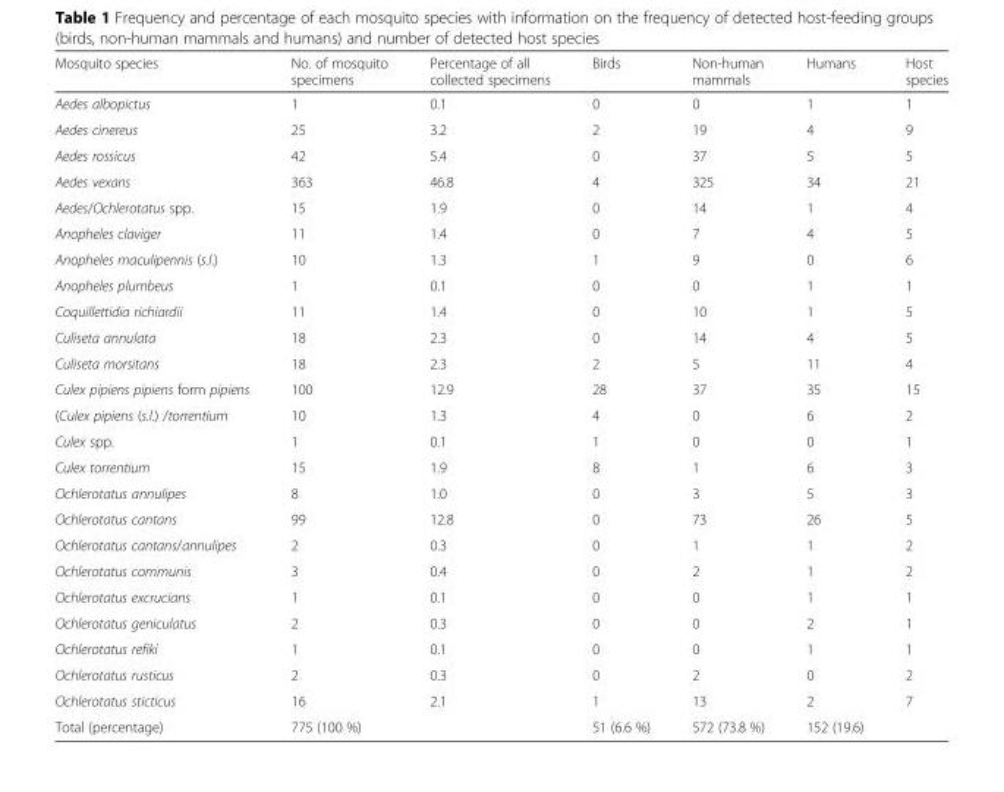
<table><thead><tr><td>Mosquito species</td><td>No. of mosquito specimens</td><td>Percentage of all collected specimens</td><td>Birds</td><td>Non-human mammals</td><td>Humans</td><td>Host species</td></tr></thead><tbody><tr><td>Aedes albopictus</td><td>1</td><td>0.1</td><td>0</td><td>0</td><td>1</td><td>1</td></tr><tr><td>Aedes cinereus</td><td>25</td><td>3.2</td><td>2</td><td>19</td><td>4</td><td>9</td></tr><tr><td>Aedes rossicus</td><td>42</td><td>5.4</td><td>0</td><td>37</td><td>5</td><td>5</td></tr><tr><td>Aedes vexans</td><td>363</td><td>46.8</td><td>4</td><td>325</td><td>34</td><td>21</td></tr><tr><td>Aedes/Ochlerotatus spp.</td><td>15</td><td>1.9</td><td>0</td><td>14</td><td>1</td><td>4</td></tr><tr><td>Anopheles claviger</td><td>11</td><td>1.4</td><td>0</td><td>7</td><td>4</td><td>5</td></tr><tr><td>Anopheles maculipennis (s.l.)</td><td>10</td><td>1.3</td><td>1</td><td>9</td><td>0</td><td>6</td></tr><tr><td>Anopheles plumbeus</td><td>1</td><td>0.1</td><td>0</td><td>0</td><td>1</td><td>1</td></tr><tr><td>Coquillettidia richiardii</td><td>11</td><td>1.4</td><td>0</td><td>10</td><td>1</td><td>5</td></tr><tr><td>Culiseta annulata</td><td>18</td><td>2.3</td><td>0</td><td>14</td><td>4</td><td>5</td></tr><tr><td>Culiseta morsitans</td><td>18</td><td>2.3</td><td>2</td><td>5</td><td>11</td><td>4</td></tr><tr><td>Culex pipiens pipiens form pipiens</td><td>100</td><td>12.9</td><td>28</td><td>37</td><td>35</td><td>15</td></tr><tr><td>(Culex pipiens (s.l.) /torrentium</td><td>10</td><td>1.3</td><td>4</td><td>0</td><td>6</td><td>2</td></tr><tr><td>Culex spp.</td><td>1</td><td>0.1</td><td>1</td><td>0</td><td>0</td><td>1</td></tr><tr><td>Culex torrentium</td><td>15</td><td>1.9</td><td>8</td><td>1</td><td>6</td><td>3</td></tr><tr><td>Ochlerotatus annulipes</td><td>8</td><td>1.0</td><td>0</td><td>3</td><td>5</td><td>3</td></tr><tr><td>Ochlerotatus cantans</td><td>99</td><td>12.8</td><td>0</td><td>73</td><td>26</td><td>5</td></tr><tr><td>Ochlerotatus cantans/annulipes</td><td>2</td><td>0.3</td><td>0</td><td>1</td><td>1</td><td>2</td></tr><tr><td>Ochlerotatus communis</td><td>3</td><td>0.4</td><td>0</td><td>2</td><td>1</td><td>2</td></tr><tr><td>Ochlerotatus excrucians</td><td>1</td><td>0.1</td><td>0</td><td>0</td><td>1</td><td>1</td></tr><tr><td>Ochlerotatus geniculatus</td><td>2</td><td>0.3</td><td>0</td><td>0</td><td>2</td><td>1</td></tr><tr><td>Ochlerotatus refiki</td><td>1</td><td>0.1</td><td>0</td><td>0</td><td>1</td><td>1</td></tr><tr><td>Ochlerotatus rusticus</td><td>2</td><td>0.3</td><td>0</td><td>2</td><td>0</td><td>2</td></tr><tr><td>Ochlerotatus sticticus</td><td>16</td><td>2.1</td><td>1</td><td>13</td><td>2</td><td>7</td></tr><tr><td>Total (percentage)</td><td>775 (100 %)</td><td></td><td>51 (6.6 %)</td><td>572 (73.8 %)</td><td>152 (19.6)</td><td></td></tr></tbody></table>